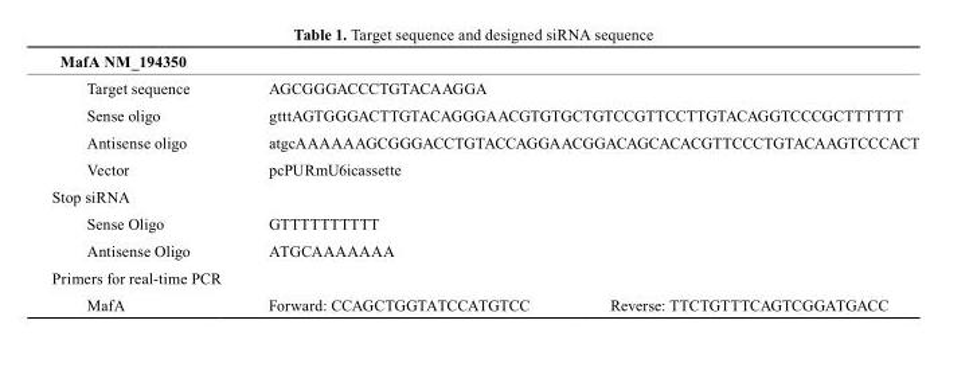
<table><thead><tr><td>MafA NM_194350</td><td></td><td></td></tr></thead><tbody><tr><td>Target sequence</td><td colspan="2">AGCGGGACCCTGTACAAGGA</td></tr><tr><td>Sense oligo</td><td colspan="2">gtttAGTGGGACTTGTACAGGGAACGTGTGCTGTCCGTTCCTTGTACAGGTCCCGCTTTTTT</td></tr><tr><td>Antisense oligo</td><td colspan="2">atgcAAAAAAGCGGGACCTGTACCAGGAACGGACAGCACACGTTCCCTGTACAAGTCCCACT</td></tr><tr><td>Vector</td><td colspan="2">pcPURmU6icassette</td></tr><tr><td colspan="3">Stop siRNA</td></tr><tr><td>Sense Oligo</td><td colspan="2">GTTTTTTTTTT</td></tr><tr><td>Antisense Oligo</td><td colspan="2">ATGCAAAAAAA</td></tr><tr><td colspan="3">Primers for real-time PCR</td></tr><tr><td>MafA</td><td>Forward: CCAGCTGGTATCCATGTCC</td><td>Reverse: TTCTGTTTCAGTCGGATGACC</td></tr></tbody></table>